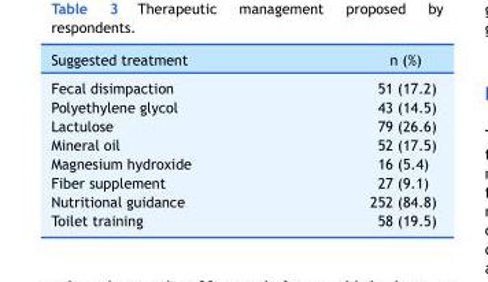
<table><thead><tr><td>Suggested treatment</td><td>n (%)</td></tr></thead><tbody><tr><td>Fecal disimpaction</td><td>51 (17.2)</td></tr><tr><td>Polyethylene glycol</td><td>43 (14.5)</td></tr><tr><td>Lactulose</td><td>79 (26.6)</td></tr><tr><td>Mineral oil</td><td>52 (17.5)</td></tr><tr><td>Magnesium hydroxide</td><td>16 (5.4)</td></tr><tr><td>Fiber supplement</td><td>27 (9.1)</td></tr><tr><td>Nutritional guidance</td><td>252 (84.8)</td></tr><tr><td>Toilet training</td><td>58 (19.5)</td></tr></tbody></table>